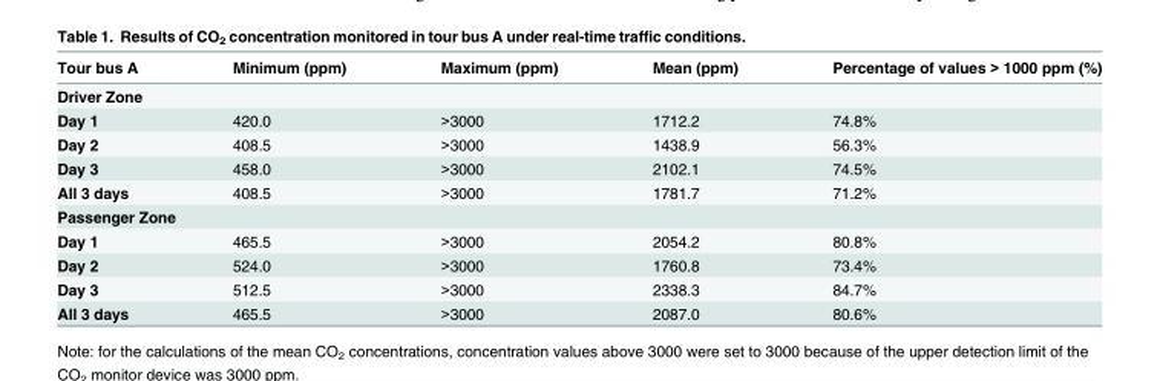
<table><thead><tr><td>Tour bus A</td><td>Minimum (ppm)</td><td>Maximum (ppm)</td><td>Mean (ppm)</td><td>Percentage of values &gt; 1000 ppm (%)</td></tr></thead><tbody><tr><td colspan="5">Driver Zone</td></tr><tr><td>Day 1</td><td>420.0</td><td>&gt;3000</td><td>1712.2</td><td>74.8%</td></tr><tr><td>Day 2</td><td>408.5</td><td>&gt;3000</td><td>1438.9</td><td>56.3%</td></tr><tr><td>Day 3</td><td>458.0</td><td>&gt;3000</td><td>2102.1</td><td>74.5%</td></tr><tr><td>All 3 days</td><td>408.5</td><td>&gt;3000</td><td>1781.7</td><td>71.2%</td></tr><tr><td colspan="5">Passenger Zone</td></tr><tr><td>Day 1</td><td>465.5</td><td>&gt;3000</td><td>2054.2</td><td>80.8%</td></tr><tr><td>Day 2</td><td>524.0</td><td>&gt;3000</td><td>1760.8</td><td>73.4%</td></tr><tr><td>Day 3</td><td>512.5</td><td>&gt;3000</td><td>2338.3</td><td>84.7%</td></tr><tr><td>All 3 days</td><td>465.5</td><td>&gt;3000</td><td>2087.0</td><td>80.6%</td></tr></tbody></table>